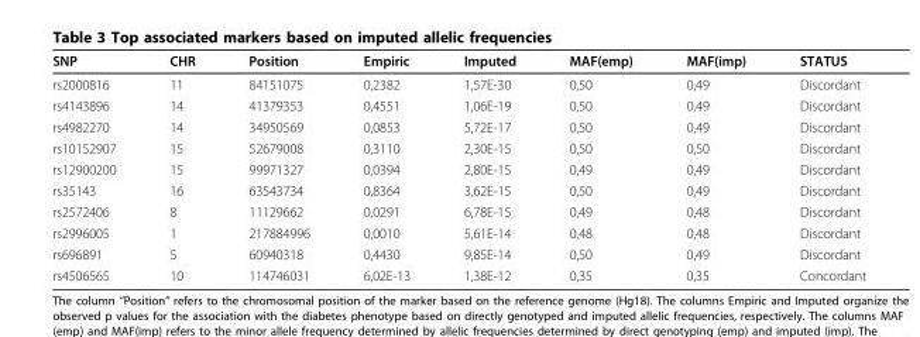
<table><thead><tr><td>SNP</td><td>CHR</td><td>Position</td><td>Empiric</td><td>Imputed</td><td>MAF(emp)</td><td>MAF(imp)</td><td>STATUS</td></tr></thead><tbody><tr><td>rs2000816</td><td>11</td><td>84151075</td><td>0,2382</td><td>1,57E-30</td><td>0,50</td><td>0,49</td><td>Discordant</td></tr><tr><td>rs4143896</td><td>14</td><td>41379353</td><td>0,4551</td><td>1,06E-19</td><td>0,50</td><td>0,49</td><td>Discordant</td></tr><tr><td>rs4982270</td><td>14</td><td>34950569</td><td>0,0853</td><td>5,72E-17</td><td>0,50</td><td>0,49</td><td>Discordant</td></tr><tr><td>rs10152907</td><td>15</td><td>52679008</td><td>0,3110</td><td>2,30E-15</td><td>0,50</td><td>0,50</td><td>Discordant</td></tr><tr><td>rs12900200</td><td>15</td><td>99971327</td><td>0,0394</td><td>2,80E-15</td><td>0,49</td><td>0,49</td><td>Discordant</td></tr><tr><td>rs35143</td><td>16</td><td>63543734</td><td>0,8364</td><td>3,62E-15</td><td>0,50</td><td>0,49</td><td>Discordant</td></tr><tr><td>rs2572406</td><td>8</td><td>11129662</td><td>0,0291</td><td>6,78E-15</td><td>0,49</td><td>0,48</td><td>Discordant</td></tr><tr><td>rs2996005</td><td>1</td><td>217884996</td><td>0,0010</td><td>5,61E-14</td><td>0,48</td><td>0,48</td><td>Discordant</td></tr><tr><td>rs696891</td><td>5</td><td>60940318</td><td>0,4430</td><td>9,85E-14</td><td>0,50</td><td>0,49</td><td>Discordant</td></tr><tr><td>rs4506565</td><td>10</td><td>114746031</td><td>6,02E-13</td><td>1,38E-12</td><td>0,35</td><td>0,35</td><td>Concordant</td></tr></tbody></table>